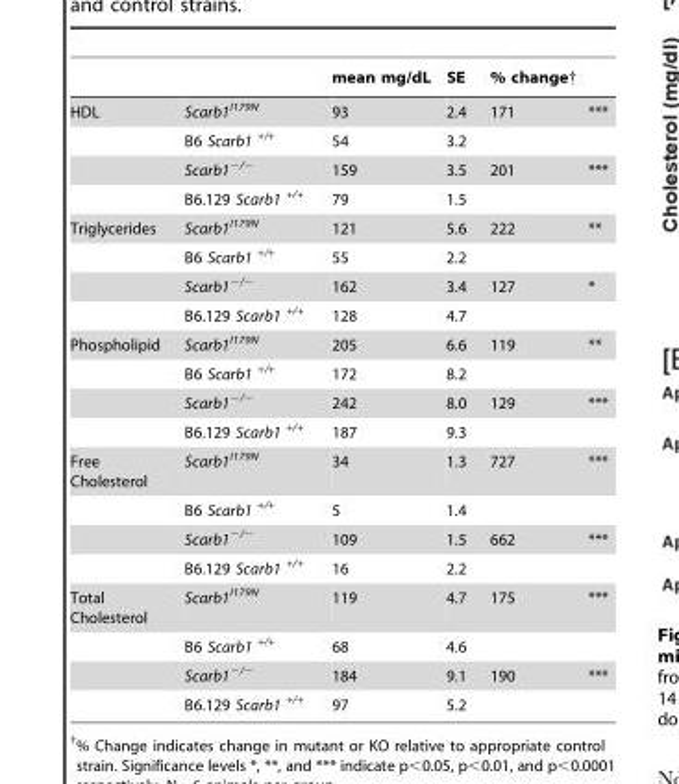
<table><thead><tr><td></td><td></td><td>mean mg/dL</td><td>SE</td><td>% change†</td><td></td></tr></thead><tbody><tr><td rowspan="4">HDL</td><td>Scarb1<sup>I179N</sup></td><td>93</td><td>2.4</td><td>171</td><td>***</td></tr><tr><td>B6 Scarb1 <sup>+/+</sup></td><td>54</td><td>3.2</td><td></td><td></td></tr><tr><td>Scarb1<sup>−/−</sup></td><td>159</td><td>3.5</td><td>201</td><td>***</td></tr><tr><td>B6.129 Scarb1 <sup>+/+</sup></td><td>79</td><td>1.5</td><td></td><td></td></tr><tr><td rowspan="4">Triglycerides</td><td>Scarb1<sup>I179N</sup></td><td>121</td><td>5.6</td><td>222</td><td>**</td></tr><tr><td>B6 Scarb1 <sup>+/+</sup></td><td>55</td><td>2.2</td><td></td><td></td></tr><tr><td>Scarb1<sup>−/−</sup></td><td>162</td><td>3.4</td><td>127</td><td>*</td></tr><tr><td>B6.129 Scarb1 <sup>+/+</sup></td><td>128</td><td>4.7</td><td></td><td></td></tr><tr><td rowspan="4">Phospholipid</td><td>Scarb1<sup>I179N</sup></td><td>205</td><td>6.6</td><td>119</td><td>**</td></tr><tr><td>B6 Scarb1 <sup>+/+</sup></td><td>172</td><td>8.2</td><td></td><td></td></tr><tr><td>Scarb1<sup>−/−</sup></td><td>242</td><td>8.0</td><td>129</td><td>***</td></tr><tr><td>B6.129 Scarb1 <sup>+/+</sup></td><td>187</td><td>9.3</td><td></td><td></td></tr><tr><td rowspan="4">Free Cholesterol</td><td>Scarb1<sup>I179N</sup></td><td>34</td><td>1.3</td><td>727</td><td>***</td></tr><tr><td>B6 Scarb1 <sup>+/+</sup></td><td>5</td><td>1.4</td><td></td><td></td></tr><tr><td>Scarb1<sup>−/−</sup></td><td>109</td><td>1.5</td><td>662</td><td>***</td></tr><tr><td>B6.129 Scarb1 <sup>+/+</sup></td><td>16</td><td>2.2</td><td></td><td></td></tr><tr><td rowspan="4">Total Cholesterol</td><td>Scarb1<sup>I179N</sup></td><td>119</td><td>4.7</td><td>175</td><td>***</td></tr><tr><td>B6 Scarb1 <sup>+/+</sup></td><td>68</td><td>4.6</td><td></td><td></td></tr><tr><td>Scarb1<sup>−/−</sup></td><td>184</td><td>9.1</td><td>190</td><td>***</td></tr><tr><td>B6.129 Scarb1 <sup>+/+</sup></td><td>97</td><td>5.2</td><td></td><td></td></tr></tbody></table>